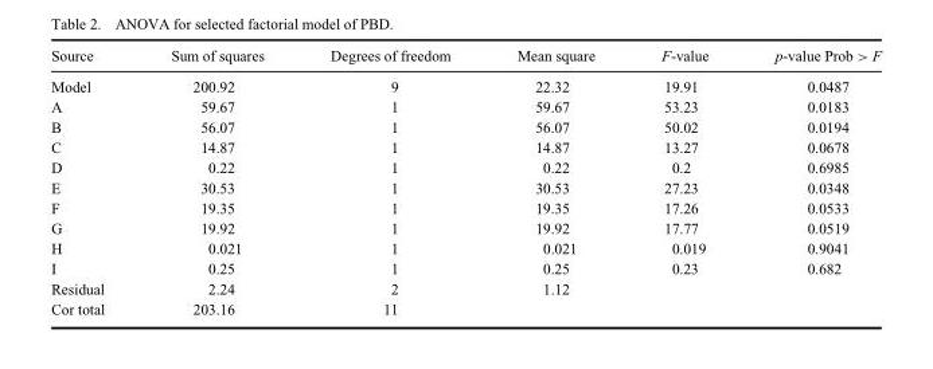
<table><thead><tr><td>Source</td><td>Sum of squares</td><td>Degrees of freedom</td><td>Mean square</td><td>F-value</td><td>p-value Prob &gt; F</td></tr></thead><tbody><tr><td>Model</td><td>200.92</td><td>9</td><td>22.32</td><td>19.91</td><td>0.0487</td></tr><tr><td>A</td><td>59.67</td><td>1</td><td>59.67</td><td>53.23</td><td>0.0183</td></tr><tr><td>B</td><td>56.07</td><td>1</td><td>56.07</td><td>50.02</td><td>0.0194</td></tr><tr><td>C</td><td>14.87</td><td>1</td><td>14.87</td><td>13.27</td><td>0.0678</td></tr><tr><td>D</td><td>0.22</td><td>1</td><td>0.22</td><td>0.2</td><td>0.6985</td></tr><tr><td>E</td><td>30.53</td><td>1</td><td>30.53</td><td>27.23</td><td>0.0348</td></tr><tr><td>F</td><td>19.35</td><td>1</td><td>19.35</td><td>17.26</td><td>0.0533</td></tr><tr><td>G</td><td>19.92</td><td>1</td><td>19.92</td><td>17.77</td><td>0.0519</td></tr><tr><td>H</td><td>0.021</td><td>1</td><td>0.021</td><td>0.019</td><td>0.9041</td></tr><tr><td>I</td><td>0.25</td><td>1</td><td>0.25</td><td>0.23</td><td>0.682</td></tr><tr><td>Residual</td><td>2.24</td><td>2</td><td>1.12</td><td></td><td></td></tr><tr><td>Cor total</td><td>203.16</td><td>11</td><td></td><td></td><td></td></tr></tbody></table>